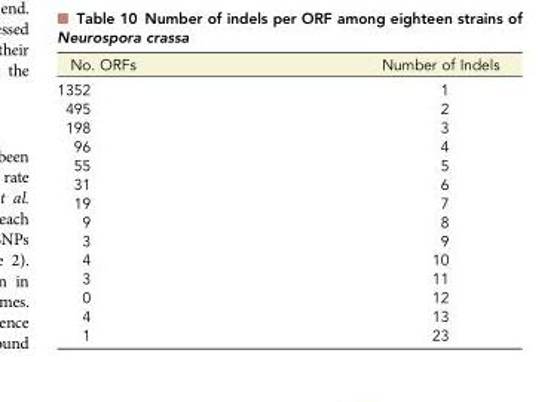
<table><thead><tr><td>No. ORFs</td><td>Number of Indels</td></tr></thead><tbody><tr><td>1352</td><td>1</td></tr><tr><td>495</td><td>2</td></tr><tr><td>198</td><td>3</td></tr><tr><td>96</td><td>4</td></tr><tr><td>55</td><td>5</td></tr><tr><td>31</td><td>6</td></tr><tr><td>19</td><td>7</td></tr><tr><td>9</td><td>8</td></tr><tr><td>3</td><td>9</td></tr><tr><td>4</td><td>10</td></tr><tr><td>3</td><td>11</td></tr><tr><td>0</td><td>12</td></tr><tr><td>4</td><td>13</td></tr><tr><td>1</td><td>23</td></tr></tbody></table>